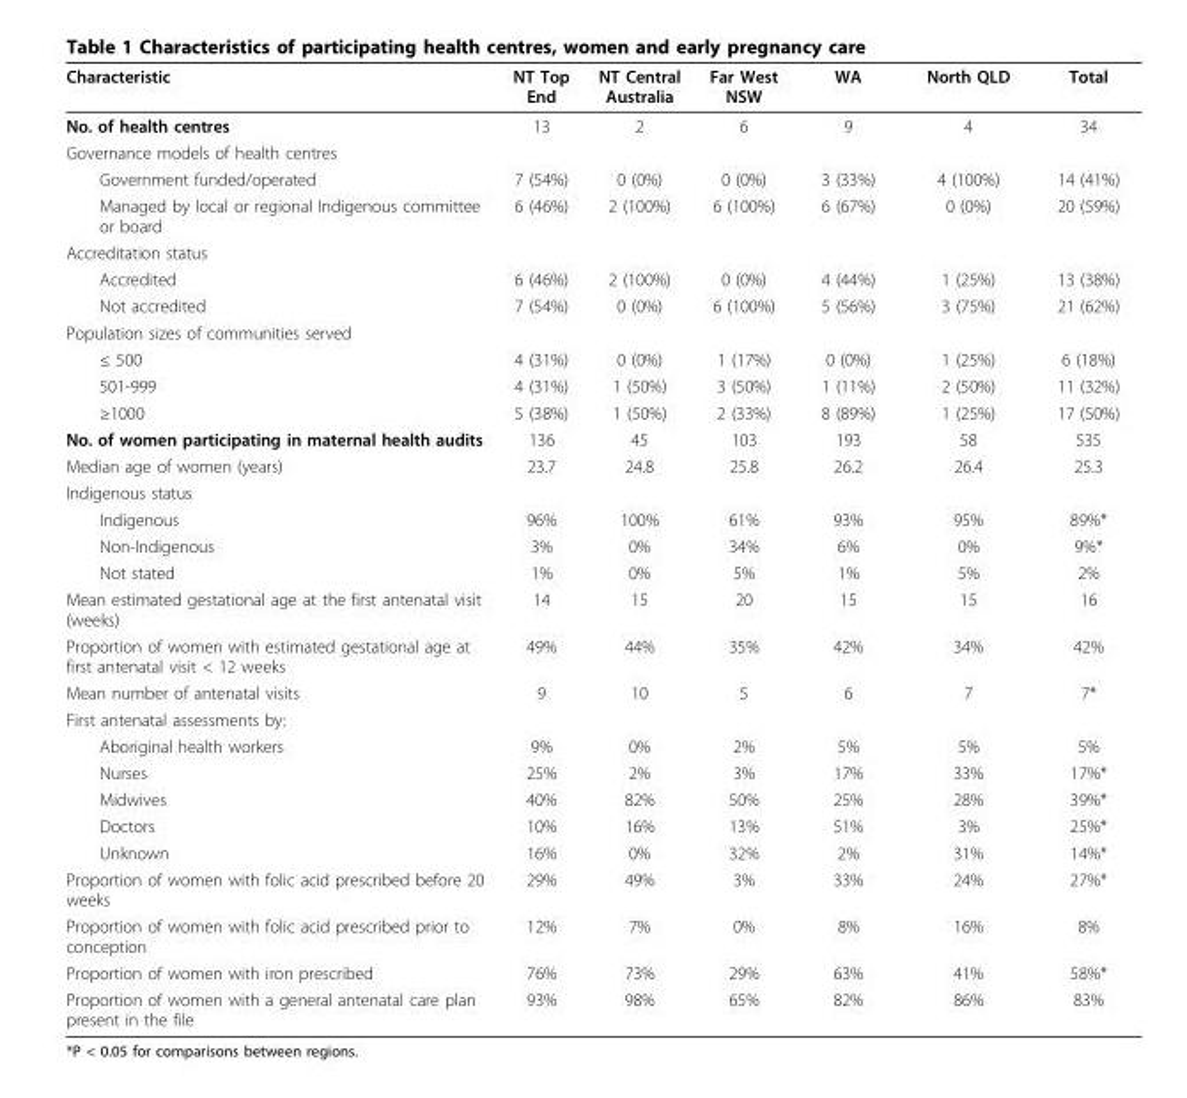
<table><thead><tr><td>Characteristic</td><td>NT Top End</td><td>NT Central Australia</td><td>Far West NSW</td><td>WA</td><td>North QLD</td><td>Total</td></tr></thead><tbody><tr><td>No. of health centres</td><td>13</td><td>2</td><td>6</td><td>9</td><td>4</td><td>34</td></tr><tr><td colspan="7">Governance models of health centres</td></tr><tr><td>Government funded/operated</td><td>7 (54%)</td><td>0 (0%)</td><td>0 (0%)</td><td>3 (33%)</td><td>4 (100%)</td><td>14 (41%)</td></tr><tr><td>Managed by local or regional Indigenous committee or board</td><td>6 (46%)</td><td>2 (100%)</td><td>6 (100%)</td><td>6 (67%)</td><td>0 (0%)</td><td>20 (59%)</td></tr><tr><td colspan="7">Accreditation status</td></tr><tr><td>Accredited</td><td>6 (46%)</td><td>2 (100%)</td><td>0 (0%)</td><td>4 (44%)</td><td>1 (25%)</td><td>13 (38%)</td></tr><tr><td>Not accredited</td><td>7 (54%)</td><td>0 (0%)</td><td>6 (100%)</td><td>5 (56%)</td><td>3 (75%)</td><td>21 (62%)</td></tr><tr><td colspan="7">Population sizes of communities served</td></tr><tr><td>≤ 500</td><td>4 (31%)</td><td>0 (0%)</td><td>1 (17%)</td><td>0 (0%)</td><td>1 (25%)</td><td>6 (18%)</td></tr><tr><td>501-999</td><td>4 (31%)</td><td>1 (50%)</td><td>3 (50%)</td><td>1 (11%)</td><td>2 (50%)</td><td>11 (32%)</td></tr><tr><td>≥1000</td><td>5 (38%)</td><td>1 (50%)</td><td>2 (33%)</td><td>8 (89%)</td><td>1 (25%)</td><td>17 (50%)</td></tr><tr><td>No. of women participating in maternal health audits</td><td>136</td><td>45</td><td>103</td><td>193</td><td>58</td><td>535</td></tr><tr><td>Median age of women (years)</td><td>23.7</td><td>24.8</td><td>25.8</td><td>26.2</td><td>26.4</td><td>25.3</td></tr><tr><td colspan="7">Indigenous status</td></tr><tr><td>Indigenous</td><td>96%</td><td>100%</td><td>61%</td><td>93%</td><td>95%</td><td>89%*</td></tr><tr><td>Non-Indigenous</td><td>3%</td><td>0%</td><td>34%</td><td>6%</td><td>0%</td><td>9%*</td></tr><tr><td>Not stated</td><td>1%</td><td>0%</td><td>5%</td><td>1%</td><td>5%</td><td>2%</td></tr><tr><td>Mean estimated gestational age at the first antenatal visit (weeks)</td><td>14</td><td>15</td><td>20</td><td>15</td><td>15</td><td>16</td></tr><tr><td>Proportion of women with estimated gestational age at first antenatal visit &lt; 12 weeks</td><td>49%</td><td>44%</td><td>35%</td><td>42%</td><td>34%</td><td>42%</td></tr><tr><td>Mean number of antenatal visits</td><td>9</td><td>10</td><td>5</td><td>6</td><td>7</td><td>7*</td></tr><tr><td colspan="7">First antenatal assessments by:</td></tr><tr><td>Aboriginal health workers</td><td>9%</td><td>0%</td><td>2%</td><td>5%</td><td>5%</td><td>5%</td></tr><tr><td>Nurses</td><td>25%</td><td>2%</td><td>3%</td><td>17%</td><td>33%</td><td>17%*</td></tr><tr><td>Midwives</td><td>40%</td><td>82%</td><td>50%</td><td>25%</td><td>28%</td><td>39%*</td></tr><tr><td>Doctors</td><td>10%</td><td>16%</td><td>13%</td><td>51%</td><td>3%</td><td>25%*</td></tr><tr><td>Unknown</td><td>16%</td><td>0%</td><td>32%</td><td>2%</td><td>31%</td><td>14%*</td></tr><tr><td>Proportion of women with folic acid prescribed before 20 weeks</td><td>29%</td><td>49%</td><td>3%</td><td>33%</td><td>24%</td><td>27%*</td></tr><tr><td>Proportion of women with folic acid prescribed prior to conception</td><td>12%</td><td>7%</td><td>0%</td><td>8%</td><td>16%</td><td>8%</td></tr><tr><td>Proportion of women with iron prescribed</td><td>76%</td><td>73%</td><td>29%</td><td>63%</td><td>41%</td><td>58%*</td></tr><tr><td>Proportion of women with a general antenatal care plan present in the file</td><td>93%</td><td>98%</td><td>65%</td><td>82%</td><td>86%</td><td>83%</td></tr></tbody></table>